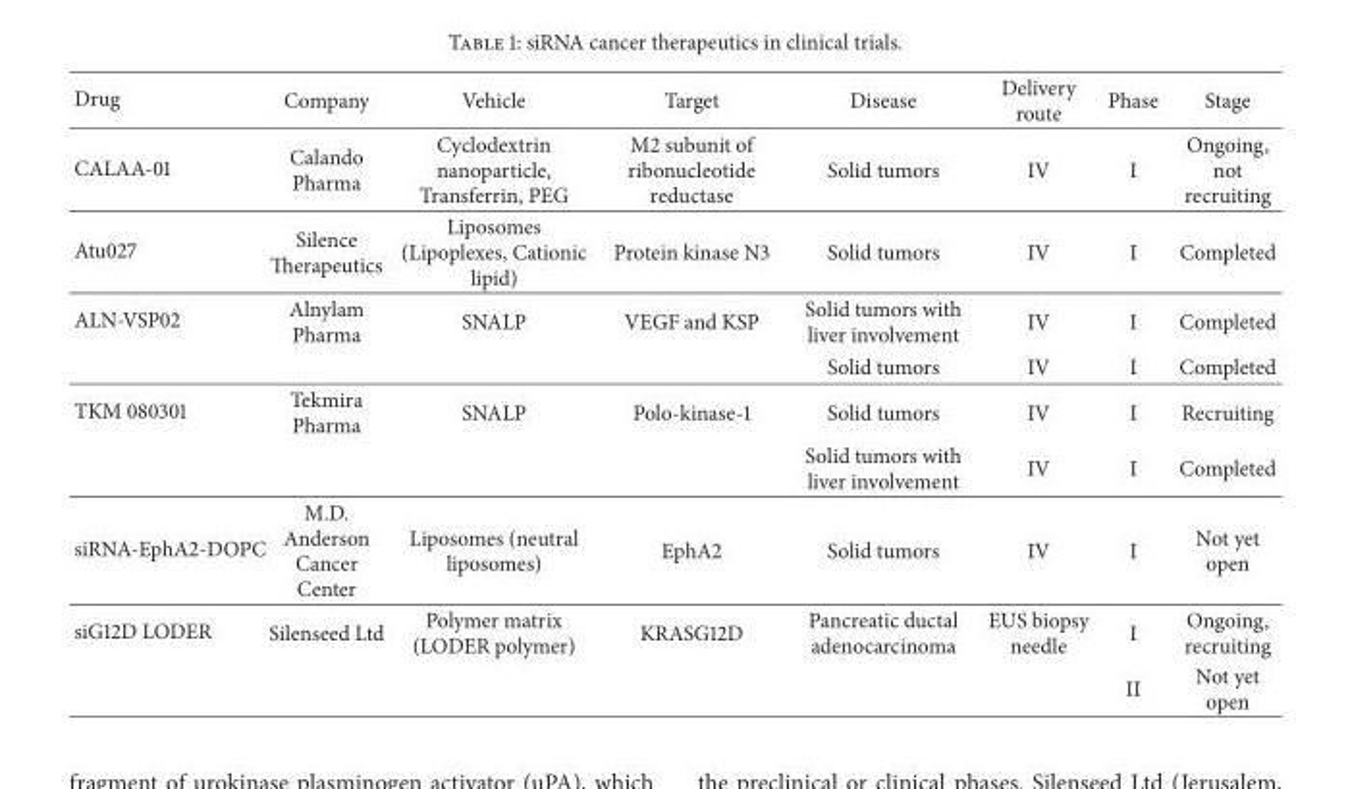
<table><thead><tr><td>Drug</td><td>Company</td><td>Vehicle</td><td>Target</td><td>Disease</td><td>Delivery route</td><td>Phase</td><td>Stage</td></tr></thead><tbody><tr><td>CALAA-01</td><td>Calando Pharma</td><td>Cyclodextrin nanoparticle, Transferrin, PEG</td><td>M2 subunit of ribonucleotide reductase</td><td>Solid tumors</td><td>IV</td><td>I</td><td>Ongoing, not recruiting</td></tr><tr><td>Atu027</td><td>Silence Therapeutics</td><td>Liposomes (Lipoplexes, Cationic lipid)</td><td>Protein kinase N3</td><td>Solid tumors</td><td>IV</td><td>I</td><td>Completed</td></tr><tr><td rowspan="2">ALN-VSP02</td><td>Alnylam Pharma</td><td>SNALP</td><td>VEGF and KSP</td><td>Solid tumors with liver involvement</td><td>IV</td><td>I</td><td>Completed</td></tr><tr><td></td><td></td><td></td><td>Solid tumors</td><td>IV</td><td>I</td><td>Completed</td></tr><tr><td rowspan="2">TKM 080301</td><td>Tekmira Pharma</td><td>SNALP</td><td>Polo-kinase-1</td><td>Solid tumors</td><td>IV</td><td>I</td><td>Recruiting</td></tr><tr><td></td><td></td><td></td><td>Solid tumors with liver involvement</td><td>IV</td><td>I</td><td>Completed</td></tr><tr><td>siRNA-EphA2-DOPC</td><td>M.D. Anderson Cancer Center</td><td>Liposomes (neutral liposomes)</td><td>EphA2</td><td>Solid tumors</td><td>IV</td><td>I</td><td>Not yet open</td></tr><tr><td rowspan="2">siG12D LODER</td><td>Silenseed Ltd</td><td>Polymer matrix (LODER polymer)</td><td>KRASG12D</td><td>Pancreatic ductal adenocarcinoma</td><td>EUS biopsy needle</td><td>I</td><td>Ongoing, recruiting</td></tr><tr><td></td><td></td><td></td><td></td><td></td><td>II</td><td>Not yet open</td></tr></tbody></table>